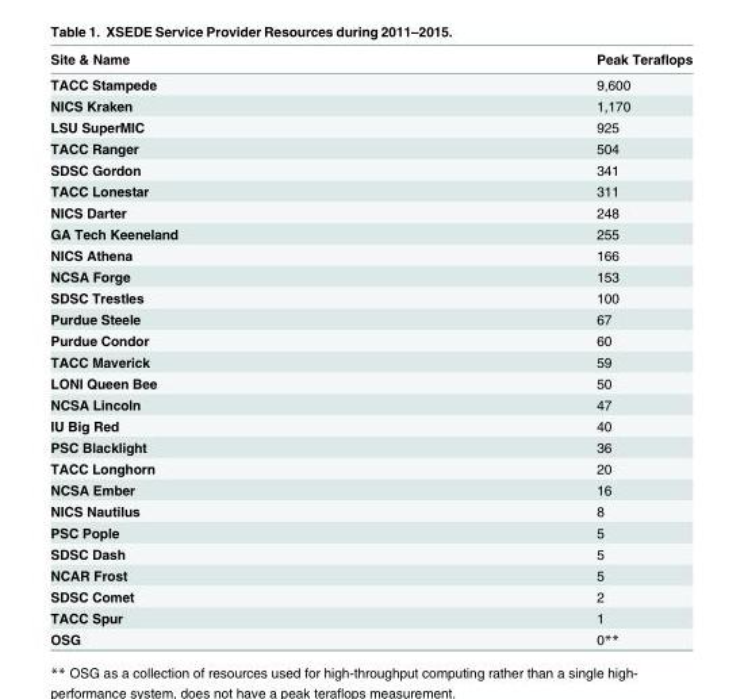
<table><thead><tr><td>Site &amp; Name</td><td>Peak Teraflops</td></tr></thead><tbody><tr><td>TACC Stampede</td><td>9,600</td></tr><tr><td>NICS Kraken</td><td>1,170</td></tr><tr><td>LSU SuperMIC</td><td>925</td></tr><tr><td>TACC Ranger</td><td>504</td></tr><tr><td>SDSC Gordon</td><td>341</td></tr><tr><td>TACC Lonestar</td><td>311</td></tr><tr><td>NICS Darter</td><td>248</td></tr><tr><td>GA Tech Keeneland</td><td>255</td></tr><tr><td>NICS Athena</td><td>166</td></tr><tr><td>NCSA Forge</td><td>153</td></tr><tr><td>SDSC Trestles</td><td>100</td></tr><tr><td>Purdue Steele</td><td>67</td></tr><tr><td>Purdue Condor</td><td>60</td></tr><tr><td>TACC Maverick</td><td>59</td></tr><tr><td>LONI Queen Bee</td><td>50</td></tr><tr><td>NCSA Lincoln</td><td>47</td></tr><tr><td>IU Big Red</td><td>40</td></tr><tr><td>PSC Blacklight</td><td>36</td></tr><tr><td>TACC Longhorn</td><td>20</td></tr><tr><td>NCSA Ember</td><td>16</td></tr><tr><td>NICS Nautilus</td><td>8</td></tr><tr><td>PSC Pople</td><td>5</td></tr><tr><td>SDSC Dash</td><td>5</td></tr><tr><td>NCAR Frost</td><td>5</td></tr><tr><td>SDSC Comet</td><td>2</td></tr><tr><td>TACC Spur</td><td>1</td></tr><tr><td>OSG</td><td>0**</td></tr></tbody></table>